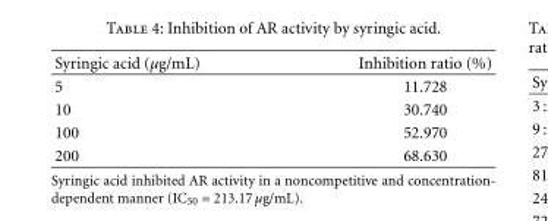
<table><thead><tr><td>Syringic acid (μg/mL)</td><td>Inhibition ratio (%)</td></tr></thead><tbody><tr><td>5</td><td>11.728</td></tr><tr><td>10</td><td>30.740</td></tr><tr><td>100</td><td>52.970</td></tr><tr><td>200</td><td>68.630</td></tr></tbody></table>